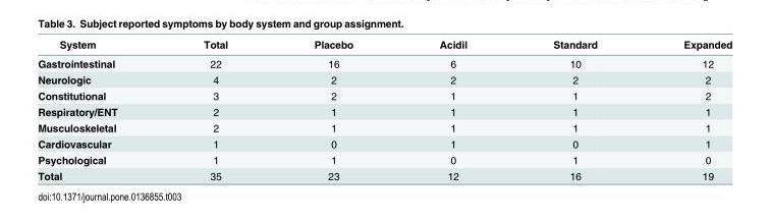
<table><thead><tr><td>System</td><td>Total</td><td>Placebo</td><td>Acidil</td><td>Standard</td><td>Expanded</td></tr></thead><tbody><tr><td>Gastrointestinal</td><td>22</td><td>16</td><td>6</td><td>10</td><td>12</td></tr><tr><td>Neurologic</td><td>4</td><td>2</td><td>2</td><td>2</td><td>2</td></tr><tr><td>Constitutional</td><td>3</td><td>2</td><td>1</td><td>1</td><td>2</td></tr><tr><td>Respiratory/ENT</td><td>2</td><td>1</td><td>1</td><td>1</td><td>1</td></tr><tr><td>Musculoskeletal</td><td>2</td><td>1</td><td>1</td><td>1</td><td>1</td></tr><tr><td>Cardiovascular</td><td>1</td><td>0</td><td>1</td><td>0</td><td>1</td></tr><tr><td>Psychological</td><td>1</td><td>1</td><td>0</td><td>1</td><td>0</td></tr><tr><td>Total</td><td>35</td><td>23</td><td>12</td><td>16</td><td>19</td></tr></tbody></table>